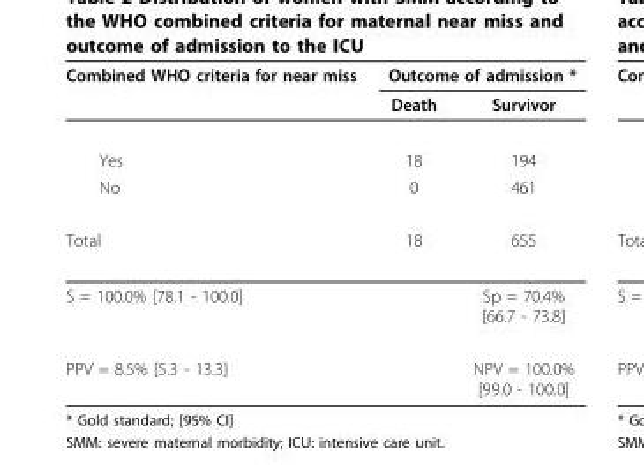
<table><thead><tr><td rowspan="2">Combined WHO criteria for near miss</td><td colspan="2">Outcome of admission *</td></tr><tr><td>Death</td><td>Survivor</td></tr></thead><tbody><tr><td>Yes</td><td>18</td><td>194</td></tr><tr><td>No</td><td>0</td><td>461</td></tr><tr><td>Total</td><td>18</td><td>655</td></tr><tr><td colspan="2">S = 100.0% [78.1 - 100.0]</td><td>Sp = 70.4% [66.7 - 73.8]</td></tr><tr><td colspan="2">PPV = 8.5% [5.3 - 13.3]</td><td>NPV = 100.0% [99.0 - 100.0]</td></tr></tbody></table>